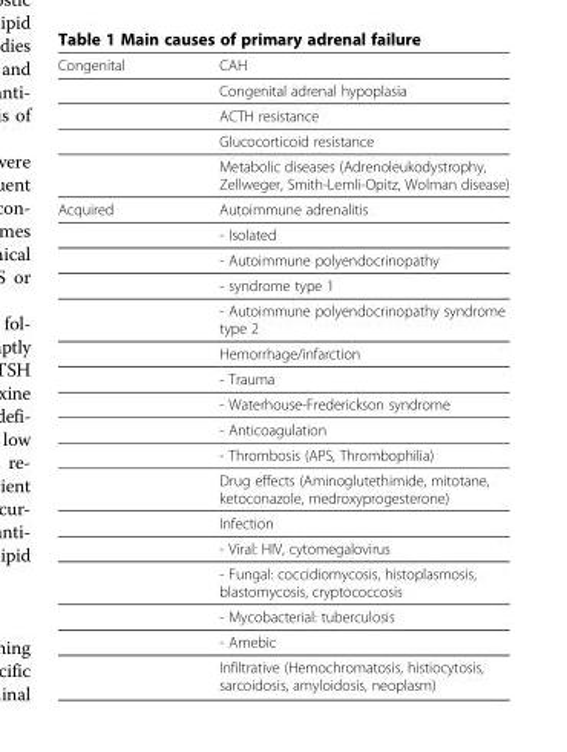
<table><tbody><tr><td rowspan="5">Congenital</td><td>CAH</td></tr><tr><td>Congenital adrenal hypoplasia</td></tr><tr><td>ACTH resistance</td></tr><tr><td>Glucocorticoid resistance</td></tr><tr><td>Metabolic diseases (Adrenoleukodystrophy, Zellweger, Smith-Lemli-Opitz, Wolman disease)</td></tr><tr><td rowspan="17">Acquired</td><td>Autoimmune adrenalitis</td></tr><tr><td>- Isolated</td></tr><tr><td>- Autoimmune polyendocrinopathy</td></tr><tr><td>- syndrome type 1</td></tr><tr><td>- Autoimmune polyendocrinopathy syndrome type 2</td></tr><tr><td>Hemorrhage/infarction</td></tr><tr><td>- Trauma</td></tr><tr><td>- Waterhouse-Frederickson syndrome</td></tr><tr><td>- Anticoagulation</td></tr><tr><td>- Thrombosis (APS, Thrombophilia)</td></tr><tr><td>Drug effects (Aminoglutethimide, mitotane, ketoconazole, medroxyprogesterone)</td></tr><tr><td>Infection</td></tr><tr><td>- Viral: HIV, cytomegalovirus</td></tr><tr><td>- Fungal: coccidiomycosis, histoplasmosis, blastomycosis, cryptococcosis</td></tr><tr><td>- Mycobacterial: tuberculosis</td></tr><tr><td>- Amebic</td></tr><tr><td>Infiltrative (Hemochromatosis, histiocytosis, sarcoidosis, amyloidosis, neoplasm)</td></tr></tbody></table>